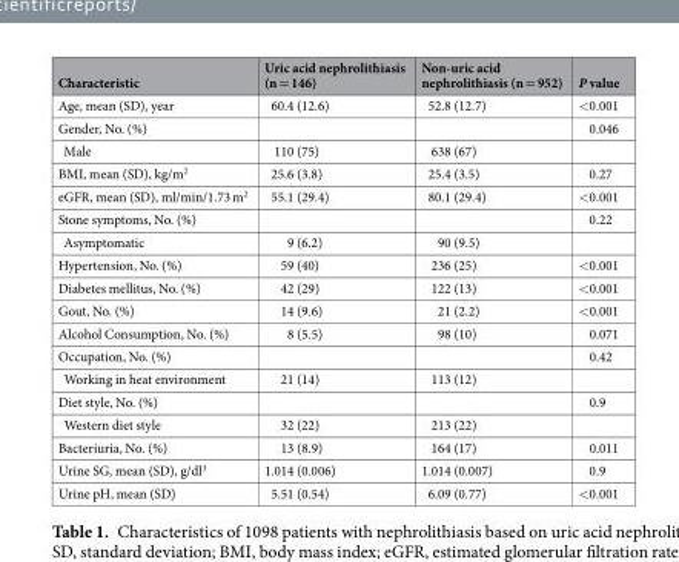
<table><thead><tr><td>Characteristic</td><td>Uric acid nephrolithiasis (n = 146)</td><td>Non-uric acid nephrolithiasis (n = 952)</td><td>P value</td></tr></thead><tbody><tr><td>Age, mean (SD), year</td><td>60.4 (12.6)</td><td>52.8 (12.7)</td><td>&lt;0.001</td></tr><tr><td>Gender, No. (%)</td><td></td><td></td><td>0.046</td></tr><tr><td>Male</td><td>110 (75)</td><td>638 (67)</td><td></td></tr><tr><td>BMI, mean (SD), kg/m<sup>2</sup></td><td>25.6 (3.8)</td><td>25.4 (3.5)</td><td>0.27</td></tr><tr><td>eGFR, mean (SD), ml/min/1.73 m<sup>2</sup></td><td>55.1 (29.4)</td><td>80.1 (29.4)</td><td>&lt;0.001</td></tr><tr><td>Stone symptoms, No. (%)</td><td></td><td></td><td>0.22</td></tr><tr><td>Asymptomatic</td><td>9 (6.2)</td><td>90 (9.5)</td><td></td></tr><tr><td>Hypertension, No. (%)</td><td>59 (40)</td><td>236 (25)</td><td>&lt;0.001</td></tr><tr><td>Diabetes mellitus, No. (%)</td><td>42 (29)</td><td>122 (13)</td><td>&lt;0.001</td></tr><tr><td>Gout, No. (%)</td><td>14 (9.6)</td><td>21 (2.2)</td><td>&lt;0.001</td></tr><tr><td>Alcohol Consumption, No. (%)</td><td>8 (5.5)</td><td>98 (10)</td><td>0.071</td></tr><tr><td>Occupation, No. (%)</td><td></td><td></td><td>0.42</td></tr><tr><td>Working in heat environment</td><td>21 (14)</td><td>113 (12)</td><td></td></tr><tr><td>Diet style, No. (%)</td><td></td><td></td><td>0.9</td></tr><tr><td>Western diet style</td><td>32 (22)</td><td>213 (22)</td><td></td></tr><tr><td>Bacteriuria, No. (%)</td><td>13 (8.9)</td><td>164 (17)</td><td>0.011</td></tr><tr><td>Urine SG, mean (SD), g/dl<sup>3</sup></td><td>1.014 (0.006)</td><td>1.014 (0.007)</td><td>0.9</td></tr><tr><td>Urine pH, mean (SD)</td><td>5.51 (0.54)</td><td>6.09 (0.77)</td><td>&lt;0.001</td></tr></tbody></table>